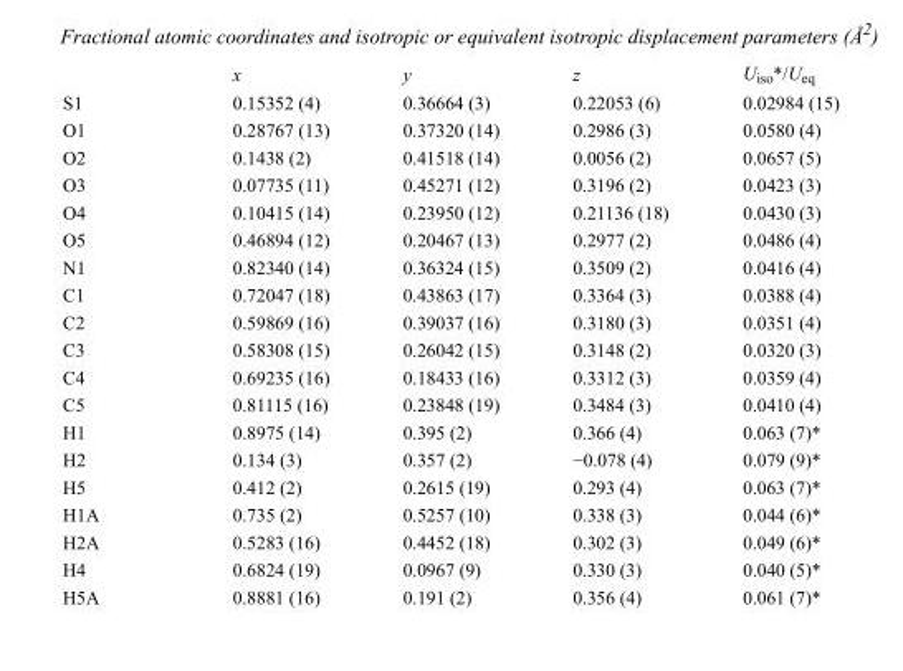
<table><thead><tr><td></td><td>x</td><td>y</td><td>z</td><td>U<sub>iso</sub>*/U<sub>eq</sub></td></tr></thead><tbody><tr><td>S1</td><td>0.15352 (4)</td><td>0.36664 (3)</td><td>0.22053 (6)</td><td>0.02984 (15)</td></tr><tr><td>O1</td><td>0.28767 (13)</td><td>0.37320 (14)</td><td>0.2986 (3)</td><td>0.0580 (4)</td></tr><tr><td>O2</td><td>0.1438 (2)</td><td>0.41518 (14)</td><td>0.0056 (2)</td><td>0.0657 (5)</td></tr><tr><td>O3</td><td>0.07735 (11)</td><td>0.45271 (12)</td><td>0.3196 (2)</td><td>0.0423 (3)</td></tr><tr><td>O4</td><td>0.10415 (14)</td><td>0.23950 (12)</td><td>0.21136 (18)</td><td>0.0430 (3)</td></tr><tr><td>O5</td><td>0.46894 (12)</td><td>0.20467 (13)</td><td>0.2977 (2)</td><td>0.0486 (4)</td></tr><tr><td>N1</td><td>0.82340 (14)</td><td>0.36324 (15)</td><td>0.3509 (2)</td><td>0.0416 (4)</td></tr><tr><td>C1</td><td>0.72047 (18)</td><td>0.43863 (17)</td><td>0.3364 (3)</td><td>0.0388 (4)</td></tr><tr><td>C2</td><td>0.59869 (16)</td><td>0.39037 (16)</td><td>0.3180 (3)</td><td>0.0351 (4)</td></tr><tr><td>C3</td><td>0.58308 (15)</td><td>0.26042 (15)</td><td>0.3148 (2)</td><td>0.0320 (3)</td></tr><tr><td>C4</td><td>0.69235 (16)</td><td>0.18433 (16)</td><td>0.3312 (3)</td><td>0.0359 (4)</td></tr><tr><td>C5</td><td>0.81115 (16)</td><td>0.23848 (19)</td><td>0.3484 (3)</td><td>0.0410 (4)</td></tr><tr><td>H1</td><td>0.8975 (14)</td><td>0.395 (2)</td><td>0.366 (4)</td><td>0.063 (7)*</td></tr><tr><td>H2</td><td>0.134 (3)</td><td>0.357 (2)</td><td>−0.078 (4)</td><td>0.079 (9)*</td></tr><tr><td>H5</td><td>0.412 (2)</td><td>0.2615 (19)</td><td>0.293 (4)</td><td>0.063 (7)*</td></tr><tr><td>H1A</td><td>0.735 (2)</td><td>0.5257 (10)</td><td>0.338 (3)</td><td>0.044 (6)*</td></tr><tr><td>H2A</td><td>0.5283 (16)</td><td>0.4452 (18)</td><td>0.302 (3)</td><td>0.049 (6)*</td></tr><tr><td>H4</td><td>0.6824 (19)</td><td>0.0967 (9)</td><td>0.330 (3)</td><td>0.040 (5)*</td></tr><tr><td>H5A</td><td>0.8881 (16)</td><td>0.191 (2)</td><td>0.356 (4)</td><td>0.061 (7)*</td></tr></tbody></table>